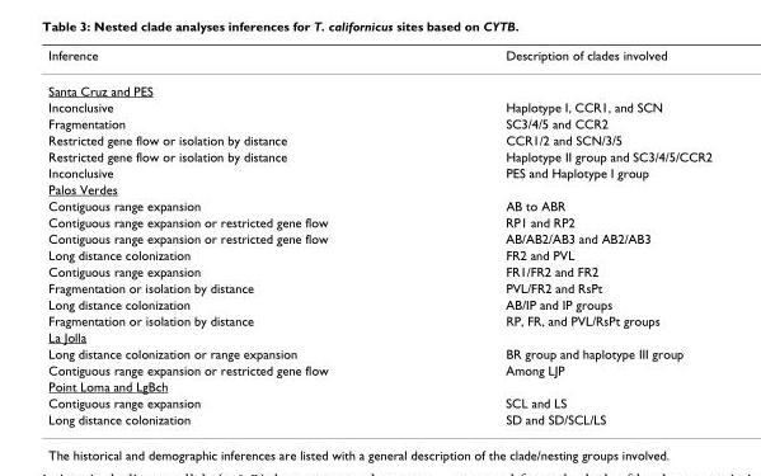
<table><thead><tr><td>Inference</td><td>Description of clades involved</td></tr></thead><tbody><tr><td colspan="2">Santa Cruz and PES</td></tr><tr><td>Inconclusive</td><td>Haplotype I, CCR1, and SCN</td></tr><tr><td>Fragmentation</td><td>SC3/4/5 and CCR2</td></tr><tr><td>Restricted gene flow or isolation by distance</td><td>CCR1/2 and SCN/3/5</td></tr><tr><td>Restricted gene flow or isolation by distance</td><td>Haplotype II group and SC3/4/5/CCR2</td></tr><tr><td>Inconclusive</td><td>PES and Haplotype I group</td></tr><tr><td colspan="2">Palos Verdes</td></tr><tr><td>Contiguous range expansion</td><td>AB to ABR</td></tr><tr><td>Contiguous range expansion or restricted gene flow</td><td>RP1 and RP2</td></tr><tr><td>Contiguous range expansion or restricted gene flow</td><td>AB/AB2/AB3 and AB2/AB3</td></tr><tr><td>Long distance colonization</td><td>FR2 and PVL</td></tr><tr><td>Contiguous range expansion</td><td>FR1/FR2 and FR2</td></tr><tr><td>Fragmentation or isolation by distance</td><td>PVL/FR2 and RsPt</td></tr><tr><td>Long distance colonization</td><td>AB/IP and IP groups</td></tr><tr><td>Fragmentation or isolation by distance</td><td>RP, FR, and PVL/RsPt groups</td></tr><tr><td colspan="2">La Jolla</td></tr><tr><td>Long distance colonization or range expansion</td><td>BR group and haplotype III group</td></tr><tr><td>Contiguous range expansion or restricted gene flow</td><td>Among LJP</td></tr><tr><td colspan="2">Point Loma and LgBch</td></tr><tr><td>Contiguous range expansion</td><td>SCL and LS</td></tr><tr><td>Long distance colonization</td><td>SD and SD/SCL/LS</td></tr></tbody></table>